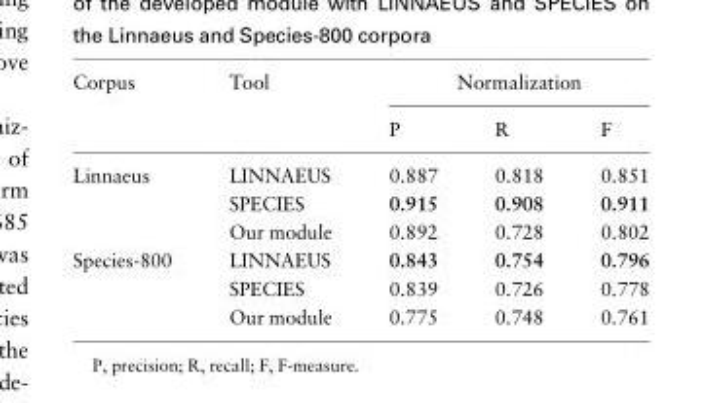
<table><thead><tr><td rowspan="2">Corpus</td><td rowspan="2">Tool</td><td colspan="3">Normalization</td></tr><tr><td>P</td><td>R</td><td>F</td></tr></thead><tbody><tr><td rowspan="3">Linnaeus</td><td>LINNAEUS</td><td>0.887</td><td>0.818</td><td>0.851</td></tr><tr><td>SPECIES</td><td>0.915</td><td>0.908</td><td>0.911</td></tr><tr><td>Our module</td><td>0.892</td><td>0.728</td><td>0.802</td></tr><tr><td rowspan="3">Species-800</td><td>LINNAEUS</td><td>0.843</td><td>0.754</td><td>0.796</td></tr><tr><td>SPECIES</td><td>0.839</td><td>0.726</td><td>0.778</td></tr><tr><td>Our module</td><td>0.775</td><td>0.748</td><td>0.761</td></tr></tbody></table>